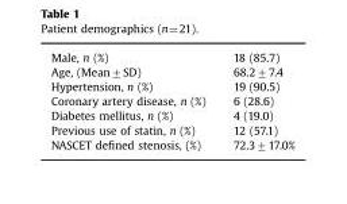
<table><tbody><tr><td>Male, n (%)</td><td>18 (85.7)</td></tr><tr><td>Age, (Mean±SD)</td><td>68.2±7.4</td></tr><tr><td>Hypertension, n (%)</td><td>19 (90.5)</td></tr><tr><td>Coronary artery disease, n (%)</td><td>6 (28.6)</td></tr><tr><td>Diabetes mellitus, n (%)</td><td>4 (19.0)</td></tr><tr><td>Previous use of statin, n (%)</td><td>12 (57.1)</td></tr><tr><td>NASCET defined stenosis, (%)</td><td>72.3±17.0%</td></tr></tbody></table>